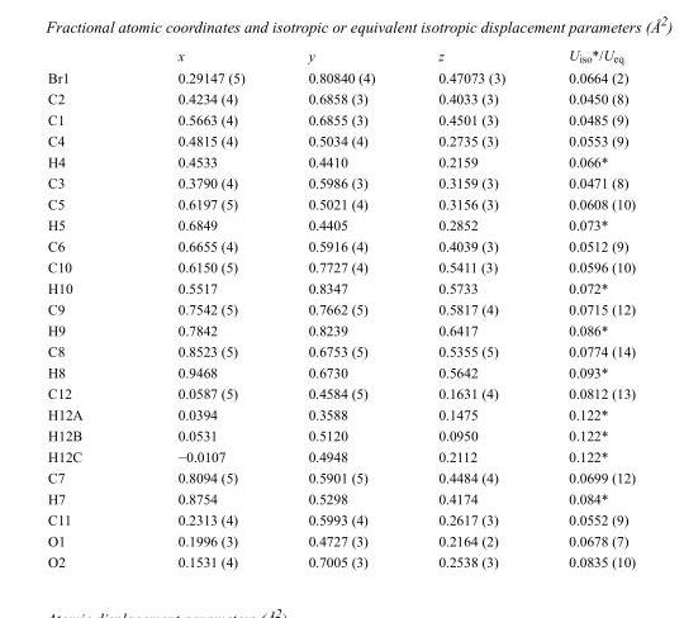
<table><thead><tr><td></td><td>x</td><td>y</td><td>z</td><td>U<sub>iso</sub>*/U<sub>eq</sub></td></tr></thead><tbody><tr><td>Br1</td><td>0.29147 (5)</td><td>0.80840 (4)</td><td>0.47073 (3)</td><td>0.0664 (2)</td></tr><tr><td>C2</td><td>0.4234 (4)</td><td>0.6858 (3)</td><td>0.4033 (3)</td><td>0.0450 (8)</td></tr><tr><td>C1</td><td>0.5663 (4)</td><td>0.6855 (3)</td><td>0.4501 (3)</td><td>0.0485 (9)</td></tr><tr><td>C4</td><td>0.4815 (4)</td><td>0.5034 (4)</td><td>0.2735 (3)</td><td>0.0553 (9)</td></tr><tr><td>H4</td><td>0.4533</td><td>0.4410</td><td>0.2159</td><td>0.066*</td></tr><tr><td>C3</td><td>0.3790 (4)</td><td>0.5986 (3)</td><td>0.3159 (3)</td><td>0.0471 (8)</td></tr><tr><td>C5</td><td>0.6197 (5)</td><td>0.5021 (4)</td><td>0.3156 (3)</td><td>0.0608 (10)</td></tr><tr><td>H5</td><td>0.6849</td><td>0.4405</td><td>0.2852</td><td>0.073*</td></tr><tr><td>C6</td><td>0.6655 (4)</td><td>0.5916 (4)</td><td>0.4039 (3)</td><td>0.0512 (9)</td></tr><tr><td>C10</td><td>0.6150 (5)</td><td>0.7727 (4)</td><td>0.5411 (3)</td><td>0.0596 (10)</td></tr><tr><td>H10</td><td>0.5517</td><td>0.8347</td><td>0.5733</td><td>0.072*</td></tr><tr><td>C9</td><td>0.7542 (5)</td><td>0.7662 (5)</td><td>0.5817 (4)</td><td>0.0715 (12)</td></tr><tr><td>H9</td><td>0.7842</td><td>0.8239</td><td>0.6417</td><td>0.086*</td></tr><tr><td>C8</td><td>0.8523 (5)</td><td>0.6753 (5)</td><td>0.5355 (5)</td><td>0.0774 (14)</td></tr><tr><td>H8</td><td>0.9468</td><td>0.6730</td><td>0.5642</td><td>0.093*</td></tr><tr><td>C12</td><td>0.0587 (5)</td><td>0.4584 (5)</td><td>0.1631 (4)</td><td>0.0812 (13)</td></tr><tr><td>H12A</td><td>0.0394</td><td>0.3588</td><td>0.1475</td><td>0.122*</td></tr><tr><td>H12B</td><td>0.0531</td><td>0.5120</td><td>0.0950</td><td>0.122*</td></tr><tr><td>H12C</td><td>−0.0107</td><td>0.4948</td><td>0.2112</td><td>0.122*</td></tr><tr><td>C7</td><td>0.8094 (5)</td><td>0.5901 (5)</td><td>0.4484 (4)</td><td>0.0699 (12)</td></tr><tr><td>H7</td><td>0.8754</td><td>0.5298</td><td>0.4174</td><td>0.084*</td></tr><tr><td>C11</td><td>0.2313 (4)</td><td>0.5993 (4)</td><td>0.2617 (3)</td><td>0.0552 (9)</td></tr><tr><td>O1</td><td>0.1996 (3)</td><td>0.4727 (3)</td><td>0.2164 (2)</td><td>0.0678 (7)</td></tr><tr><td>O2</td><td>0.1531 (4)</td><td>0.7005 (3)</td><td>0.2538 (3)</td><td>0.0835 (10)</td></tr></tbody></table>